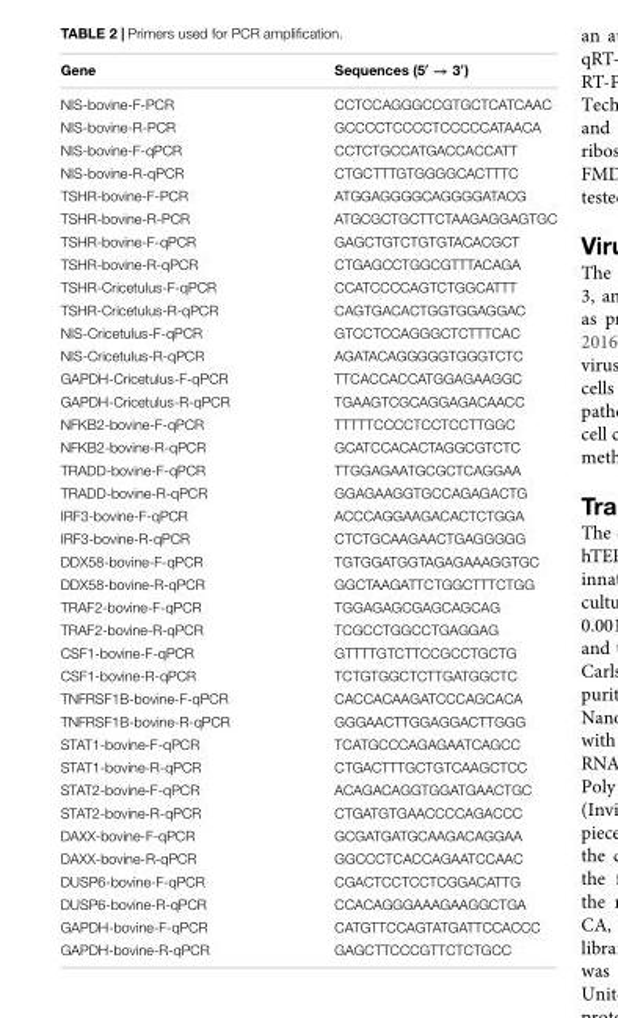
<table><thead><tr><td>Gene</td><td>Sequences (5′ → 3′)</td></tr></thead><tbody><tr><td>NIS-bovine-F-PCR</td><td>CCTCCAGGGCCGTGCTCATCAAC</td></tr><tr><td>NIS-bovine-R-PCR</td><td>GCCCCTCCCCTCCCCCATAACA</td></tr><tr><td>NIS-bovine-F-qPCR</td><td>CCTCTGCCATGACCACCATT</td></tr><tr><td>NIS-bovine-R-qPCR</td><td>CTGCTTTGTGGGGCACTTTC</td></tr><tr><td>TSHR-bovine-F-PCR</td><td>ATGGAGGGGCAGGGGATACG</td></tr><tr><td>TSHR-bovine-R-PCR</td><td>ATGCGCTGCTTCTAAGAGGAGTGC</td></tr><tr><td>TSHR-bovine-F-qPCR</td><td>GAGCTGTCTGTGTACACGCT</td></tr><tr><td>TSHR-bovine-R-qPCR</td><td>CTGAGCCTGGCGTTTACAGA</td></tr><tr><td>TSHR-Cricetulus-F-qPCR</td><td>CCATCCCCAGTCTGGCATTT</td></tr><tr><td>TSHR-Cricetulus-R-qPCR</td><td>CAGTGACACTGGTGGAGGAC</td></tr><tr><td>NIS-Cricetulus-F-qPCR</td><td>GTCCTCCAGGGCTCTTTCAC</td></tr><tr><td>NIS-Cricetulus-R-qPCR</td><td>AGATACAGGGGGTGGGTCTC</td></tr><tr><td>GAPDH-Cricetulus-F-qPCR</td><td>TTCACCACCATGGAGAAGGC</td></tr><tr><td>GAPDH-Cricetulus-R-qPCR</td><td>TGAAGTCGCAGGAGACAACC</td></tr><tr><td>NFKB2-bovine-F-qPCR</td><td>TTTTTCCCCTCCTCCTTGGC</td></tr><tr><td>NFKB2-bovine-R-qPCR</td><td>GCATCCACACTAGGCGTCTC</td></tr><tr><td>TRADD-bovine-F-qPCR</td><td>TTGGAGAATGCGCTCAGGAA</td></tr><tr><td>TRADD-bovine-R-qPCR</td><td>GGAGAAGGTGCCAGAGACTG</td></tr><tr><td>IRF3-bovine-F-qPCR</td><td>ACCCAGGAAGACACTCTGGA</td></tr><tr><td>IRF3-bovine-R-qPCR</td><td>CTCTGCAAGAACTGAGGGGG</td></tr><tr><td>DDX58-bovine-F-qPCR</td><td>TGTGGATGGTAGAGAAAGGTGC</td></tr><tr><td>DDX58-bovine-R-qPCR</td><td>GGCTAAGATTCTGGCTTTCTGG</td></tr><tr><td>TRAF2-bovine-F-qPCR</td><td>TGGAGAGCGAGCAGCAG</td></tr><tr><td>TRAF2-bovine-R-qPCR</td><td>TCGCCTGGCCTGAGGAG</td></tr><tr><td>CSF1-bovine-F-qPCR</td><td>GTTTTGTCTTCCGCCTGCTG</td></tr><tr><td>CSF1-bovine-R-qPCR</td><td>TCTGTGGCTCTTGATGGCTC</td></tr><tr><td>TNFRSF1B-bovine-F-qPCR</td><td>CACCACAAGATCCCAGCACA</td></tr><tr><td>TNFRSF1B-bovine-R-qPCR</td><td>GGGAACTTGGAGGACTTGGG</td></tr><tr><td>STAT1-bovine-F-qPCR</td><td>TCATGCCCAGAGAATCAGCC</td></tr><tr><td>STAT1-bovine-R-qPCR</td><td>CTGACTTTGCTGTCAAGCTCC</td></tr><tr><td>STAT2-bovine-F-qPCR</td><td>ACAGACAGGTGGATGAACTGC</td></tr><tr><td>STAT2-bovine-R-qPCR</td><td>CTGATGTGAACCCCAGACCC</td></tr><tr><td>DAXX-bovine-F-qPCR</td><td>GCGATGATGCAAGACAGGAA</td></tr><tr><td>DAXX-bovine-R-qPCR</td><td>GGCCCTCACCAGAATCCAAC</td></tr><tr><td>DUSP6-bovine-F-qPCR</td><td>CGACTCCTCCTCGGACATTG</td></tr><tr><td>DUSP6-bovine-R-qPCR</td><td>CCACAGGGAAAGAAGGCTGA</td></tr><tr><td>GAPDH-bovine-F-qPCR</td><td>CATGTTCCAGTATGATTCCACCC</td></tr><tr><td>GAPDH-bovine-R-qPCR</td><td>GAGCTTCCCGTTCTCTGCC</td></tr></tbody></table>